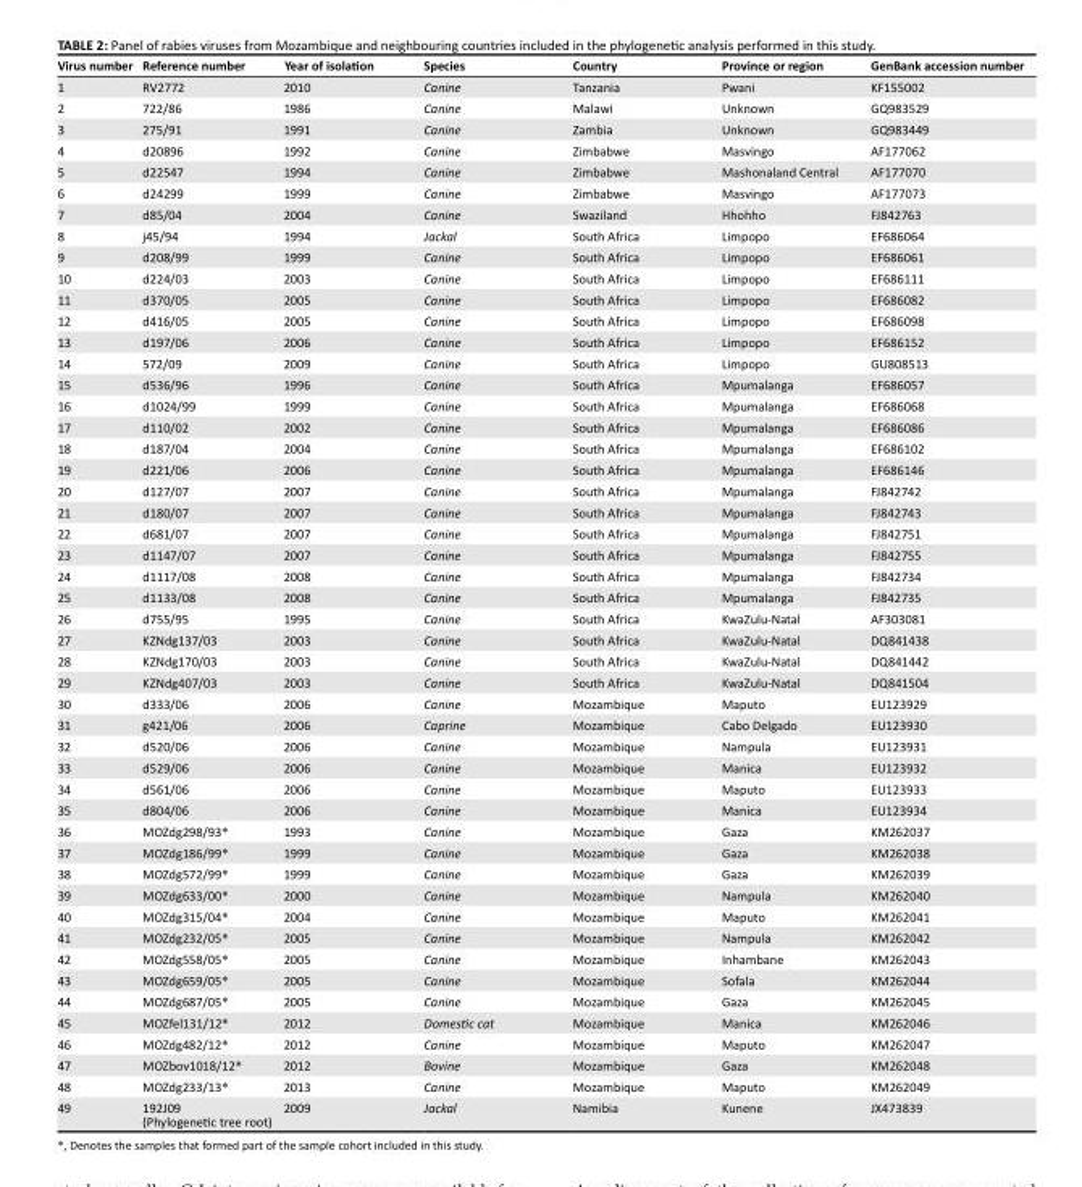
<table><thead><tr><td>Virus number</td><td>Reference number</td><td>Year of isolation</td><td>Species</td><td>Country</td><td>Province or region</td><td>GenBank accession number</td></tr></thead><tbody><tr><td>1</td><td>RV2772</td><td>2010</td><td>Canine</td><td>Tanzania</td><td>Pwani</td><td>KF155002</td></tr><tr><td>2</td><td>722/86</td><td>1986</td><td>Canine</td><td>Malawi</td><td>Unknown</td><td>GQ983529</td></tr><tr><td>3</td><td>275/91</td><td>1991</td><td>Canine</td><td>Zambia</td><td>Unknown</td><td>GQ983449</td></tr><tr><td>4</td><td>d20896</td><td>1992</td><td>Canine</td><td>Zimbabwe</td><td>Masvingo</td><td>AF177062</td></tr><tr><td>5</td><td>d22547</td><td>1994</td><td>Canine</td><td>Zimbabwe</td><td>Mashonaland Central</td><td>AF177070</td></tr><tr><td>6</td><td>d24299</td><td>1999</td><td>Canine</td><td>Zimbabwe</td><td>Masvingo</td><td>AF177073</td></tr><tr><td>7</td><td>d85/04</td><td>2004</td><td>Canine</td><td>Swaziland</td><td>Hhohho</td><td>FJ842763</td></tr><tr><td>8</td><td>j45/94</td><td>1994</td><td>Jackal</td><td>South Africa</td><td>Limpopo</td><td>EF686064</td></tr><tr><td>9</td><td>d208/99</td><td>1999</td><td>Canine</td><td>South Africa</td><td>Limpopo</td><td>EF686061</td></tr><tr><td>10</td><td>d224/03</td><td>2003</td><td>Canine</td><td>South Africa</td><td>Limpopo</td><td>EF686111</td></tr><tr><td>11</td><td>d370/05</td><td>2005</td><td>Canine</td><td>South Africa</td><td>Limpopo</td><td>EF686082</td></tr><tr><td>12</td><td>d416/05</td><td>2005</td><td>Canine</td><td>South Africa</td><td>Limpopo</td><td>EF686098</td></tr><tr><td>13</td><td>d197/06</td><td>2006</td><td>Canine</td><td>South Africa</td><td>Limpopo</td><td>EF686152</td></tr><tr><td>14</td><td>572/09</td><td>2009</td><td>Canine</td><td>South Africa</td><td>Limpopo</td><td>GU808513</td></tr><tr><td>15</td><td>d536/96</td><td>1996</td><td>Canine</td><td>South Africa</td><td>Mpumalanga</td><td>EF686057</td></tr><tr><td>16</td><td>d1024/99</td><td>1999</td><td>Canine</td><td>South Africa</td><td>Mpumalanga</td><td>EF686068</td></tr><tr><td>17</td><td>d110/02</td><td>2002</td><td>Canine</td><td>South Africa</td><td>Mpumalanga</td><td>EF686086</td></tr><tr><td>18</td><td>d187/04</td><td>2004</td><td>Canine</td><td>South Africa</td><td>Mpumalanga</td><td>EF686102</td></tr><tr><td>19</td><td>d221/06</td><td>2006</td><td>Canine</td><td>South Africa</td><td>Mpumalanga</td><td>EF686146</td></tr><tr><td>20</td><td>d127/07</td><td>2007</td><td>Canine</td><td>South Africa</td><td>Mpumalanga</td><td>FJ842742</td></tr><tr><td>21</td><td>d180/07</td><td>2007</td><td>Canine</td><td>South Africa</td><td>Mpumalanga</td><td>FJ842743</td></tr><tr><td>22</td><td>d681/07</td><td>2007</td><td>Canine</td><td>South Africa</td><td>Mpumalanga</td><td>FJ842751</td></tr><tr><td>23</td><td>d1147/07</td><td>2007</td><td>Canine</td><td>South Africa</td><td>Mpumalanga</td><td>FJ842755</td></tr><tr><td>24</td><td>d1117/08</td><td>2008</td><td>Canine</td><td>South Africa</td><td>Mpumalanga</td><td>FJ842734</td></tr><tr><td>25</td><td>d1133/08</td><td>2008</td><td>Canine</td><td>South Africa</td><td>Mpumalanga</td><td>FJ842735</td></tr><tr><td>26</td><td>d755/95</td><td>1995</td><td>Canine</td><td>South Africa</td><td>KwaZulu-Natal</td><td>AF303081</td></tr><tr><td>27</td><td>KZNdg137/03</td><td>2003</td><td>Canine</td><td>South Africa</td><td>KwaZulu-Natal</td><td>DQ841438</td></tr><tr><td>28</td><td>KZNdg170/03</td><td>2003</td><td>Canine</td><td>South Africa</td><td>KwaZulu-Natal</td><td>DQ841442</td></tr><tr><td>29</td><td>KZNdg407/03</td><td>2003</td><td>Canine</td><td>South Africa</td><td>KwaZulu-Natal</td><td>DQ841504</td></tr><tr><td>30</td><td>d333/06</td><td>2006</td><td>Canine</td><td>Mozambique</td><td>Maputo</td><td>EU123929</td></tr><tr><td>31</td><td>g421/06</td><td>2006</td><td>Caprine</td><td>Mozambique</td><td>Cabo Delgado</td><td>EU123930</td></tr><tr><td>32</td><td>d520/06</td><td>2006</td><td>Canine</td><td>Mozambique</td><td>Nampula</td><td>EU123931</td></tr><tr><td>33</td><td>d529/06</td><td>2006</td><td>Canine</td><td>Mozambique</td><td>Manica</td><td>EU123932</td></tr><tr><td>34</td><td>d561/06</td><td>2006</td><td>Canine</td><td>Mozambique</td><td>Maputo</td><td>EU123933</td></tr><tr><td>35</td><td>d804/06</td><td>2006</td><td>Canine</td><td>Mozambique</td><td>Manica</td><td>EU123934</td></tr><tr><td>36</td><td>MOZdg298/93*</td><td>1993</td><td>Canine</td><td>Mozambique</td><td>Gaza</td><td>KM262037</td></tr><tr><td>37</td><td>MOZdg186/99*</td><td>1999</td><td>Canine</td><td>Mozambique</td><td>Gaza</td><td>KM262038</td></tr><tr><td>38</td><td>MOZdg572/99*</td><td>1999</td><td>Canine</td><td>Mozambique</td><td>Gaza</td><td>KM262039</td></tr><tr><td>39</td><td>MOZdg633/00*</td><td>2000</td><td>Canine</td><td>Mozambique</td><td>Nampula</td><td>KM262040</td></tr><tr><td>40</td><td>MOZdg315/04*</td><td>2004</td><td>Canine</td><td>Mozambique</td><td>Maputo</td><td>KM262041</td></tr><tr><td>41</td><td>MOZdg232/05*</td><td>2005</td><td>Canine</td><td>Mozambique</td><td>Nampula</td><td>KM262042</td></tr><tr><td>42</td><td>MOZdg558/05*</td><td>2005</td><td>Canine</td><td>Mozambique</td><td>Inhambane</td><td>KM262043</td></tr><tr><td>43</td><td>MOZdg659/05*</td><td>2005</td><td>Canine</td><td>Mozambique</td><td>Sofala</td><td>KM262044</td></tr><tr><td>44</td><td>MOZdg687/05*</td><td>2005</td><td>Canine</td><td>Mozambique</td><td>Gaza</td><td>KM262045</td></tr><tr><td>45</td><td>MOZfel131/12*</td><td>2012</td><td>Domestic cat</td><td>Mozambique</td><td>Manica</td><td>KM262046</td></tr><tr><td>46</td><td>MOZdg482/12*</td><td>2012</td><td>Canine</td><td>Mozambique</td><td>Maputo</td><td>KM262047</td></tr><tr><td>47</td><td>MOZbov1018/12*</td><td>2012</td><td>Bovine</td><td>Mozambique</td><td>Gaza</td><td>KM262048</td></tr><tr><td>48</td><td>MOZdg233/13*</td><td>2013</td><td>Canine</td><td>Mozambique</td><td>Maputo</td><td>KM262049</td></tr><tr><td>49</td><td>192J09 (Phylogenetic tree root)</td><td>2009</td><td>Jackal</td><td>Namibia</td><td>Kunene</td><td>JX473839</td></tr></tbody></table>